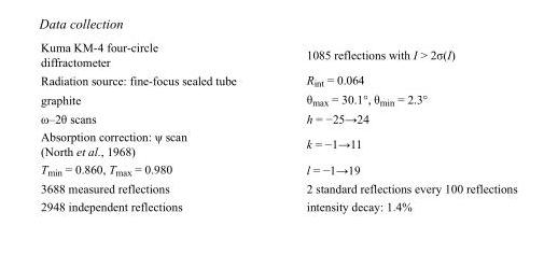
<table><tbody><tr><td>Kuma KM-4 four-circle diffractometer</td><td>1085 reflections with I &gt; 2σ(I)</td></tr><tr><td>Radiation source: fine-focus sealed tube</td><td>R<sub>int</sub> = 0.064</td></tr><tr><td>graphite</td><td>θ<sub>max</sub> = 30.1°, θ<sub>min</sub> = 2.3°</td></tr><tr><td>ω–2θ scans</td><td>h = −25→24</td></tr><tr><td>Absorption correction: ψ scan (North et al., 1968)</td><td>k = −1→11</td></tr><tr><td>T<sub>min</sub> = 0.860, T<sub>max</sub> = 0.980</td><td>l = −1→19</td></tr><tr><td>3688 measured reflections</td><td>2 standard reflections every 100 reflections</td></tr><tr><td>2948 independent reflections</td><td>intensity decay: 1.4%</td></tr></tbody></table>